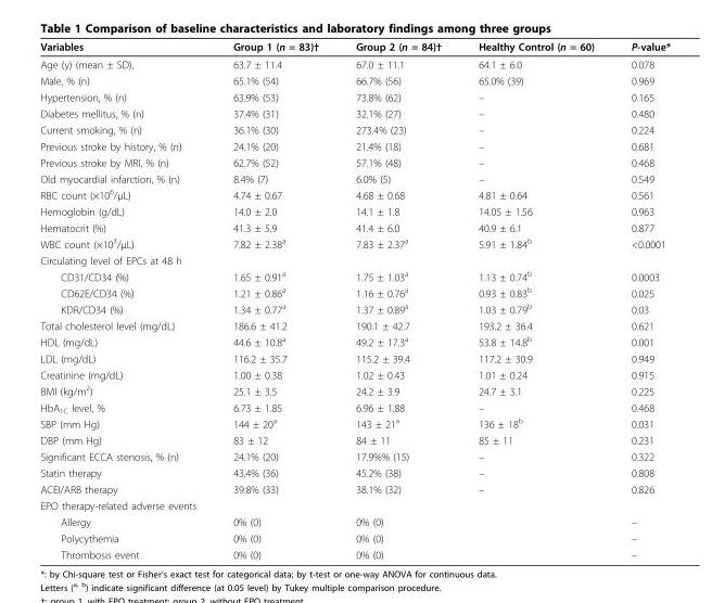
<table><thead><tr><td>Variables</td><td>Group 1 (n = 83)†</td><td>Group 2 (n = 84)†</td><td>Healthy Control (n = 60)</td><td>P-value*</td></tr></thead><tbody><tr><td>Age (y) (mean ± SD),</td><td>63.7 ± 11.4</td><td>67.0 ± 11.1</td><td>64.1 ± 6.0</td><td>0.078</td></tr><tr><td>Male, % (n)</td><td>65.1% (54)</td><td>66.7% (56)</td><td>65.0% (39)</td><td>0.969</td></tr><tr><td>Hypertension, % (n)</td><td>63.9% (53)</td><td>73.8% (62)</td><td>–</td><td>0.165</td></tr><tr><td>Diabetes mellitus, % (n)</td><td>37.4% (31)</td><td>32.1% (27)</td><td>–</td><td>0.480</td></tr><tr><td>Current smoking, % (n)</td><td>36.1% (30)</td><td>273.4% (23)</td><td>–</td><td>0.224</td></tr><tr><td>Previous stroke by history, % (n)</td><td>24.1% (20)</td><td>21.4% (18)</td><td>–</td><td>0.681</td></tr><tr><td>Previous stroke by MRI, % (n)</td><td>62.7% (52)</td><td>57.1% (48)</td><td>–</td><td>0.468</td></tr><tr><td>Old myocardial infarction, % (n)</td><td>8.4% (7)</td><td>6.0% (5)</td><td>–</td><td>0.549</td></tr><tr><td>RBC count (×10<sup>6</sup>/μL)</td><td>4.74 ± 0.67</td><td>4.68 ± 0.68</td><td>4.81 ± 0.64</td><td>0.561</td></tr><tr><td>Hemoglobin (g/dL)</td><td>14.0 ± 2.0</td><td>14.1 ± 1.8</td><td>14.05 ± 1.56</td><td>0.963</td></tr><tr><td>Hematocrit (%)</td><td>41.3 ± 5.9</td><td>41.4 ± 6.0</td><td>40.9 ± 6.1</td><td>0.877</td></tr><tr><td>WBC count (×10<sup>3</sup>/μL)</td><td>7.82 ± 2.38<sup>a</sup></td><td>7.83 ± 2.37<sup>a</sup></td><td>5.91 ± 1.84<sup>b</sup></td><td>&lt;0.0001</td></tr><tr><td colspan="5">Circulating level of EPCs at 48 h</td></tr><tr><td>CD31/CD34 (%)</td><td>1.65 ± 0.91<sup>a</sup></td><td>1.75 ± 1.03<sup>a</sup></td><td>1.13 ± 0.74<sup>b</sup></td><td>0.0003</td></tr><tr><td>CD62E/CD34 (%)</td><td>1.21 ± 0.86<sup>a</sup></td><td>1.16 ± 0.76<sup>a</sup></td><td>0.93 ± 0.83<sup>b</sup></td><td>0.025</td></tr><tr><td>KDR/CD34 (%)</td><td>1.34 ± 0.77<sup>a</sup></td><td>1.37 ± 0.89<sup>a</sup></td><td>1.03 ± 0.79<sup>b</sup></td><td>0.03</td></tr><tr><td>Total cholesterol level (mg/dL)</td><td>186.6 ± 41.2</td><td>190.1 ± 42.7</td><td>193.2 ± 36.4</td><td>0.621</td></tr><tr><td>HDL (mg/dL)</td><td>44.6 ± 10.8<sup>a</sup></td><td>49.2 ± 17.3<sup>a</sup></td><td>53.8 ± 14.8<sup>b</sup></td><td>0.001</td></tr><tr><td>LDL (mg/dL)</td><td>116.2 ± 35.7</td><td>115.2 ± 39.4</td><td>117.2 ± 30.9</td><td>0.949</td></tr><tr><td>Creatinine (mg/dL)</td><td>1.00 ± 0.38</td><td>1.02 ± 0.43</td><td>1.01 ± 0.24</td><td>0.915</td></tr><tr><td>BMI (kg/m<sup>2</sup>)</td><td>25.1 ± 3.5</td><td>24.2 ± 3.9</td><td>24.7 ± 3.1</td><td>0.225</td></tr><tr><td>HbA<sub>1C</sub> level, %</td><td>6.73 ± 1.85</td><td>6.96 ± 1.88</td><td>–</td><td>0.468</td></tr><tr><td>SBP (mm Hg)</td><td>144 ± 20<sup>a</sup></td><td>143 ± 21<sup>a</sup></td><td>136 ± 18<sup>b</sup></td><td>0.031</td></tr><tr><td>DBP (mm Hg)</td><td>83 ± 12</td><td>84 ± 11</td><td>85 ± 11</td><td>0.231</td></tr><tr><td>Significant ECCA stenosis, % (n)</td><td>24.1% (20)</td><td>17.9%% (15)</td><td>–</td><td>0.322</td></tr><tr><td>Statin therapy</td><td>43.4% (36)</td><td>45.2% (38)</td><td>–</td><td>0.808</td></tr><tr><td>ACEI/ARB therapy</td><td>39.8% (33)</td><td>38.1% (32)</td><td>–</td><td>0.826</td></tr><tr><td colspan="5">EPO therapy-related adverse events</td></tr><tr><td>Allergy</td><td>0% (0)</td><td>0% (0)</td><td></td><td>–</td></tr><tr><td>Polycythemia</td><td>0% (0)</td><td>0% (0)</td><td></td><td>–</td></tr><tr><td>Thrombosis event</td><td>0% (0)</td><td>0% (0)</td><td></td><td>–</td></tr></tbody></table>